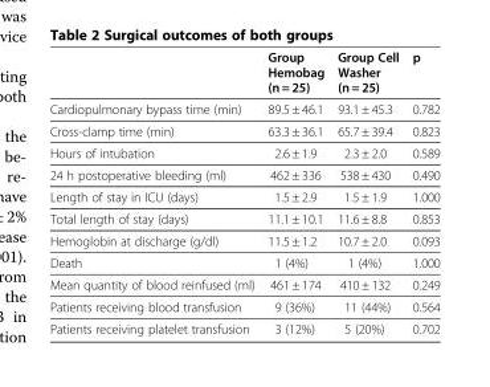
<table><thead><tr><td></td><td>Group Hemobag (n = 25)</td><td>Group Cell Washer (n = 25)</td><td>p</td></tr></thead><tbody><tr><td>Cardiopulmonary bypass time (min)</td><td>89.5 ± 46.1</td><td>93.1 ± 45.3</td><td>0.782</td></tr><tr><td>Cross-clamp time (min)</td><td>63.3 ± 36.1</td><td>65.7 ± 39.4</td><td>0.823</td></tr><tr><td>Hours of intubation</td><td>2.6 ± 1.9</td><td>2.3 ± 2.0</td><td>0.589</td></tr><tr><td>24 h postoperative bleeding (ml)</td><td>462 ± 336</td><td>538 ± 430</td><td>0.490</td></tr><tr><td>Length of stay in ICU (days)</td><td>1.5 ± 2.9</td><td>1.5 ± 1.9</td><td>1.000</td></tr><tr><td>Total length of stay (days)</td><td>11.1 ± 10.1</td><td>11.6 ± 8.8</td><td>0.853</td></tr><tr><td>Hemoglobin at discharge (g/dl)</td><td>11.5 ± 1.2</td><td>10.7 ± 2.0</td><td>0.093</td></tr><tr><td>Death</td><td>1 (4%)</td><td>1 (4%)</td><td>1.000</td></tr><tr><td>Mean quantity of blood reinfused (ml)</td><td>461 ± 174</td><td>410 ± 132</td><td>0.249</td></tr><tr><td>Patients receiving blood transfusion</td><td>9 (36%)</td><td>11 (44%)</td><td>0.564</td></tr><tr><td>Patients receiving platelet transfusion</td><td>3 (12%)</td><td>5 (20%)</td><td>0.702</td></tr></tbody></table>